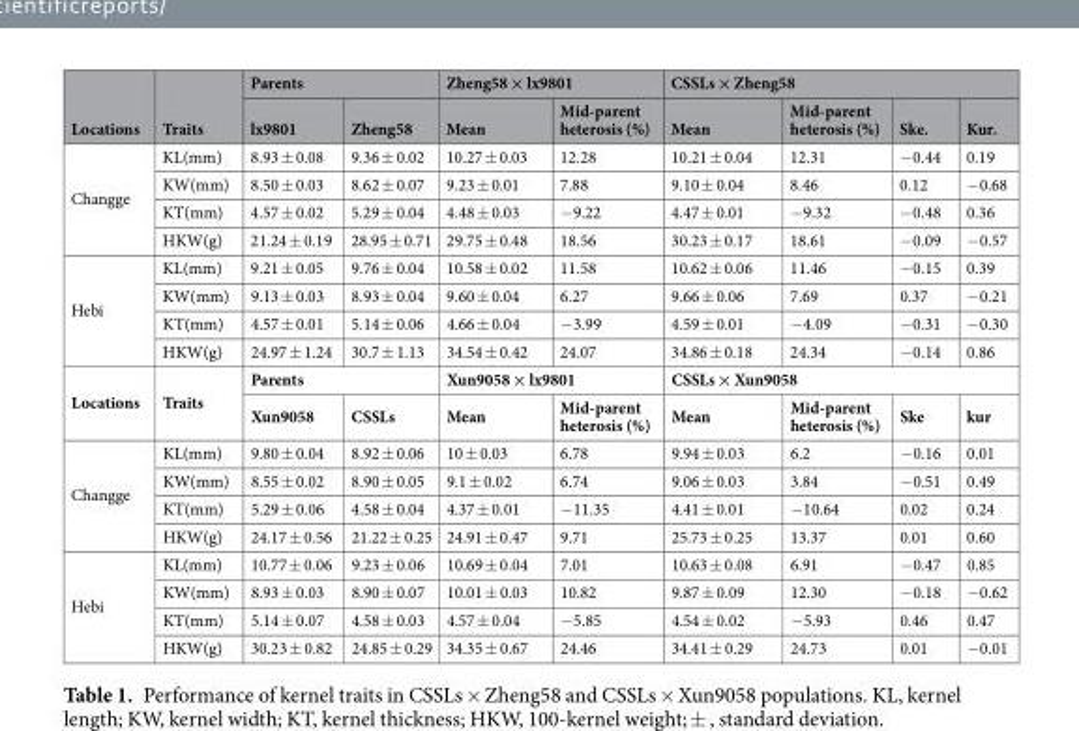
<table><thead><tr><td rowspan="2">Locations</td><td rowspan="2">Traits</td><td colspan="2">Parents</td><td colspan="2">Zheng58 × lx9801</td><td colspan="4">CSSLs × Zheng58</td></tr><tr><td>lx9801</td><td>Zheng58</td><td>Mean</td><td>Mid-parent heterosis (%)</td><td>Mean</td><td>Mid-parent heterosis (%)</td><td>Ske.</td><td>Kur.</td></tr></thead><tbody><tr><td rowspan="4">Changge</td><td>KL(mm)</td><td>8.93 ± 0.08</td><td>9.36 ± 0.02</td><td>10.27 ± 0.03</td><td>12.28</td><td>10.21 ± 0.04</td><td>12.31</td><td>−0.44</td><td>0.19</td></tr><tr><td>KW(mm)</td><td>8.50 ± 0.03</td><td>8.62 ± 0.07</td><td>9.23 ± 0.01</td><td>7.88</td><td>9.10 ± 0.04</td><td>8.46</td><td>0.12</td><td>−0.68</td></tr><tr><td>KT(mm)</td><td>4.57 ± 0.02</td><td>5.29 ± 0.04</td><td>4.48 ± 0.03</td><td>−9.22</td><td>4.47 ± 0.01</td><td>−9.32</td><td>−0.48</td><td>0.36</td></tr><tr><td>HKW(g)</td><td>21.24 ± 0.19</td><td>28.95 ± 0.71</td><td>29.75 ± 0.48</td><td>18.56</td><td>30.23 ± 0.17</td><td>18.61</td><td>−0.09</td><td>−0.57</td></tr><tr><td rowspan="4">Hebi</td><td>KL(mm)</td><td>9.21 ± 0.05</td><td>9.76 ± 0.04</td><td>10.58 ± 0.02</td><td>11.58</td><td>10.62 ± 0.06</td><td>11.46</td><td>−0.15</td><td>0.39</td></tr><tr><td>KW(mm)</td><td>9.13 ± 0.03</td><td>8.93 ± 0.04</td><td>9.60 ± 0.04</td><td>6.27</td><td>9.66 ± 0.06</td><td>7.69</td><td>0.37</td><td>−0.21</td></tr><tr><td>KT(mm)</td><td>4.57 ± 0.01</td><td>5.14 ± 0.06</td><td>4.66 ± 0.04</td><td>−3.99</td><td>4.59 ± 0.01</td><td>−4.09</td><td>−0.31</td><td>−0.30</td></tr><tr><td>HKW(g)</td><td>24.97 ± 1.24</td><td>30.7 ± 1.13</td><td>34.54 ± 0.42</td><td>24.07</td><td>34.86 ± 0.18</td><td>24.34</td><td>−0.14</td><td>0.86</td></tr><tr><td rowspan="2">Locations</td><td rowspan="2">Traits</td><td colspan="2">Parents</td><td colspan="2">Xun9058 × lx9801</td><td colspan="4">CSSLs × Xun9058</td></tr><tr><td>Xun9058</td><td>CSSLs</td><td>Mean</td><td>Mid-parent heterosis (%)</td><td>Mean</td><td>Mid-parent heterosis (%)</td><td>Ske</td><td>kur</td></tr><tr><td rowspan="4">Changge</td><td>KL(mm)</td><td>9.80 ± 0.04</td><td>8.92 ± 0.06</td><td>10 ± 0.03</td><td>6.78</td><td>9.94 ± 0.03</td><td>6.2</td><td>−0.16</td><td>0.01</td></tr><tr><td>KW(mm)</td><td>8.55 ± 0.02</td><td>8.90 ± 0.05</td><td>9.1 ± 0.02</td><td>6.74</td><td>9.06 ± 0.03</td><td>3.84</td><td>−0.51</td><td>0.49</td></tr><tr><td>KT(mm)</td><td>5.29 ± 0.06</td><td>4.58 ± 0.04</td><td>4.37 ± 0.01</td><td>−11.35</td><td>4.41 ± 0.01</td><td>−10.64</td><td>0.02</td><td>0.24</td></tr><tr><td>HKW(g)</td><td>24.17 ± 0.56</td><td>21.22 ± 0.25</td><td>24.91 ± 0.47</td><td>9.71</td><td>25.73 ± 0.25</td><td>13.37</td><td>0.01</td><td>0.60</td></tr><tr><td rowspan="4">Hebi</td><td>KL(mm)</td><td>10.77 ± 0.06</td><td>9.23 ± 0.06</td><td>10.69 ± 0.04</td><td>7.01</td><td>10.63 ± 0.08</td><td>6.91</td><td>−0.47</td><td>0.85</td></tr><tr><td>KW(mm)</td><td>8.93 ± 0.03</td><td>8.90 ± 0.07</td><td>10.01 ± 0.03</td><td>10.82</td><td>9.87 ± 0.09</td><td>12.30</td><td>−0.18</td><td>−0.62</td></tr><tr><td>KT(mm)</td><td>5.14 ± 0.07</td><td>4.58 ± 0.03</td><td>4.57 ± 0.04</td><td>−5.85</td><td>4.54 ± 0.02</td><td>−5.93</td><td>0.46</td><td>0.47</td></tr><tr><td>HKW(g)</td><td>30.23 ± 0.82</td><td>24.85 ± 0.29</td><td>34.35 ± 0.67</td><td>24.46</td><td>34.41 ± 0.29</td><td>24.73</td><td>0.01</td><td>−0.01</td></tr></tbody></table>